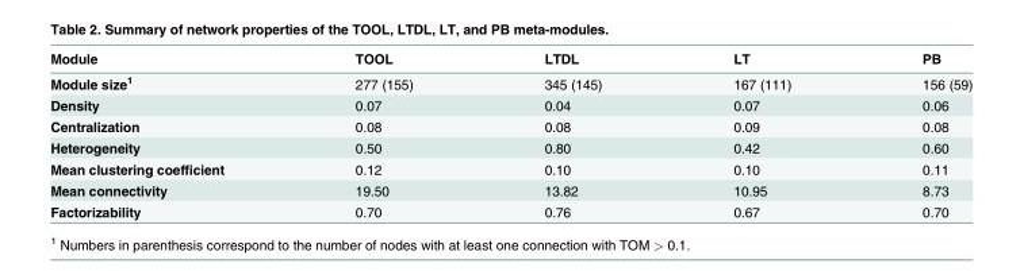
<table><thead><tr><td>Module</td><td>TOOL</td><td>LTDL</td><td>LT</td><td>PB</td></tr></thead><tbody><tr><td>Module size<sup>1</sup></td><td>277 (155)</td><td>345 (145)</td><td>167 (111)</td><td>156 (59)</td></tr><tr><td>Density</td><td>0.07</td><td>0.04</td><td>0.07</td><td>0.06</td></tr><tr><td>Centralization</td><td>0.08</td><td>0.08</td><td>0.09</td><td>0.08</td></tr><tr><td>Heterogeneity</td><td>0.50</td><td>0.80</td><td>0.42</td><td>0.60</td></tr><tr><td>Mean clustering coefficient</td><td>0.12</td><td>0.10</td><td>0.10</td><td>0.11</td></tr><tr><td>Mean connectivity</td><td>19.50</td><td>13.82</td><td>10.95</td><td>8.73</td></tr><tr><td>Factorizability</td><td>0.70</td><td>0.76</td><td>0.67</td><td>0.70</td></tr></tbody></table>